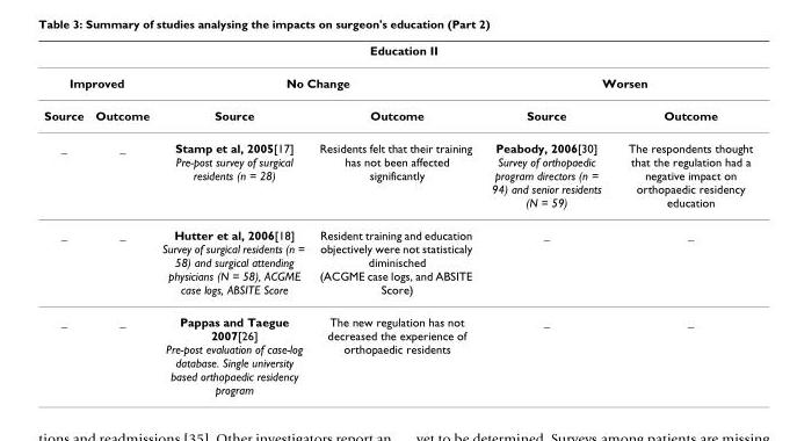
<table><thead><tr><td colspan="6">Education II</td></tr><tr><td colspan="2">Improved</td><td colspan="2">No Change</td><td colspan="2">Worsen</td></tr><tr><td>Source</td><td>Outcome</td><td>Source</td><td>Outcome</td><td>Source</td><td>Outcome</td></tr></thead><tbody><tr><td>_</td><td>_</td><td>Stamp et al, 2005[17] Pre-post survey of surgical residents (n = 28)</td><td>Residents felt that their training has not been affected significantly</td><td>Peabody, 2006[30] Survey of orthopaedic program directors (n = 94) and senior residents (N = 59)</td><td>The respondents thought that the regulation had a negative impact on orthopaedic residency education</td></tr><tr><td>_</td><td>_</td><td>Hutter et al, 2006[18] Survey of surgical residents (n = 58) and surgical attending physicians (N = 58), ACGME case logs, ABSITE Score</td><td>Resident training and education objectively were not statisticaly diminisched (ACGME case logs, and ABSITE Score)</td><td>_</td><td>_</td></tr><tr><td>_</td><td>_</td><td>Pappas and Taegue 2007[26] Pre-post evaluation of case-log database. Single university based orthopaedic residency program</td><td>The new regulation has not decreased the experience of orthopaedic residents</td><td>_</td><td>_</td></tr></tbody></table>